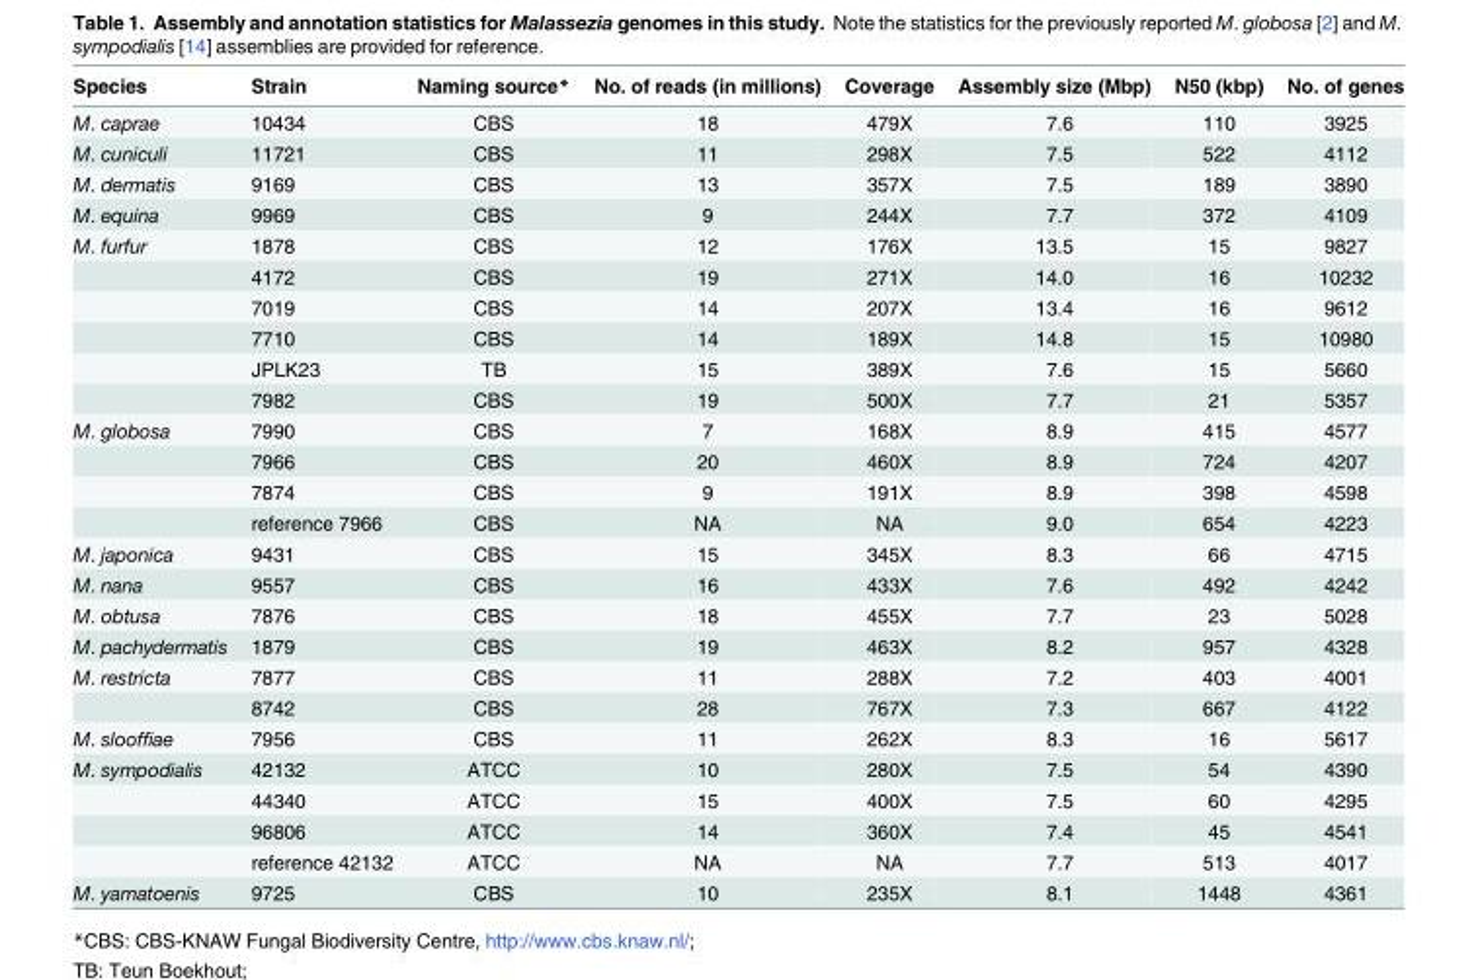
<table><thead><tr><td>Species</td><td>Strain</td><td>Naming source*</td><td>No. of reads (in millions)</td><td>Coverage</td><td>Assembly size (Mbp)</td><td>N50 (kbp)</td><td>No. of genes</td></tr></thead><tbody><tr><td>M. caprae</td><td>10434</td><td>CBS</td><td>18</td><td>479X</td><td>7.6</td><td>110</td><td>3925</td></tr><tr><td>M. cuniculi</td><td>11721</td><td>CBS</td><td>11</td><td>298X</td><td>7.5</td><td>522</td><td>4112</td></tr><tr><td>M. dermatis</td><td>9169</td><td>CBS</td><td>13</td><td>357X</td><td>7.5</td><td>189</td><td>3890</td></tr><tr><td>M. equina</td><td>9969</td><td>CBS</td><td>9</td><td>244X</td><td>7.7</td><td>372</td><td>4109</td></tr><tr><td rowspan="6">M. furfur</td><td>1878</td><td>CBS</td><td>12</td><td>176X</td><td>13.5</td><td>15</td><td>9827</td></tr><tr><td>4172</td><td>CBS</td><td>19</td><td>271X</td><td>14.0</td><td>16</td><td>10232</td></tr><tr><td>7019</td><td>CBS</td><td>14</td><td>207X</td><td>13.4</td><td>16</td><td>9612</td></tr><tr><td>7710</td><td>CBS</td><td>14</td><td>189X</td><td>14.8</td><td>15</td><td>10980</td></tr><tr><td>JPLK23</td><td>TB</td><td>15</td><td>389X</td><td>7.6</td><td>15</td><td>5660</td></tr><tr><td>7982</td><td>CBS</td><td>19</td><td>500X</td><td>7.7</td><td>21</td><td>5357</td></tr><tr><td rowspan="4">M. globosa</td><td>7990</td><td>CBS</td><td>7</td><td>168X</td><td>8.9</td><td>415</td><td>4577</td></tr><tr><td>7966</td><td>CBS</td><td>20</td><td>460X</td><td>8.9</td><td>724</td><td>4207</td></tr><tr><td>7874</td><td>CBS</td><td>9</td><td>191X</td><td>8.9</td><td>398</td><td>4598</td></tr><tr><td>reference 7966</td><td>CBS</td><td>NA</td><td>NA</td><td>9.0</td><td>654</td><td>4223</td></tr><tr><td>M. japonica</td><td>9431</td><td>CBS</td><td>15</td><td>345X</td><td>8.3</td><td>66</td><td>4715</td></tr><tr><td>M. nana</td><td>9557</td><td>CBS</td><td>16</td><td>433X</td><td>7.6</td><td>492</td><td>4242</td></tr><tr><td>M. obtusa</td><td>7876</td><td>CBS</td><td>18</td><td>455X</td><td>7.7</td><td>23</td><td>5028</td></tr><tr><td>M. pachydermatis</td><td>1879</td><td>CBS</td><td>19</td><td>463X</td><td>8.2</td><td>957</td><td>4328</td></tr><tr><td rowspan="2">M. restricta</td><td>7877</td><td>CBS</td><td>11</td><td>288X</td><td>7.2</td><td>403</td><td>4001</td></tr><tr><td>8742</td><td>CBS</td><td>28</td><td>767X</td><td>7.3</td><td>667</td><td>4122</td></tr><tr><td>M. slooffiae</td><td>7956</td><td>CBS</td><td>11</td><td>262X</td><td>8.3</td><td>16</td><td>5617</td></tr><tr><td rowspan="4">M. sympodialis</td><td>42132</td><td>ATCC</td><td>10</td><td>280X</td><td>7.5</td><td>54</td><td>4390</td></tr><tr><td>44340</td><td>ATCC</td><td>15</td><td>400X</td><td>7.5</td><td>60</td><td>4295</td></tr><tr><td>96806</td><td>ATCC</td><td>14</td><td>360X</td><td>7.4</td><td>45</td><td>4541</td></tr><tr><td>reference 42132</td><td>ATCC</td><td>NA</td><td>NA</td><td>7.7</td><td>513</td><td>4017</td></tr><tr><td>M. yamatoenis</td><td>9725</td><td>CBS</td><td>10</td><td>235X</td><td>8.1</td><td>1448</td><td>4361</td></tr></tbody></table>